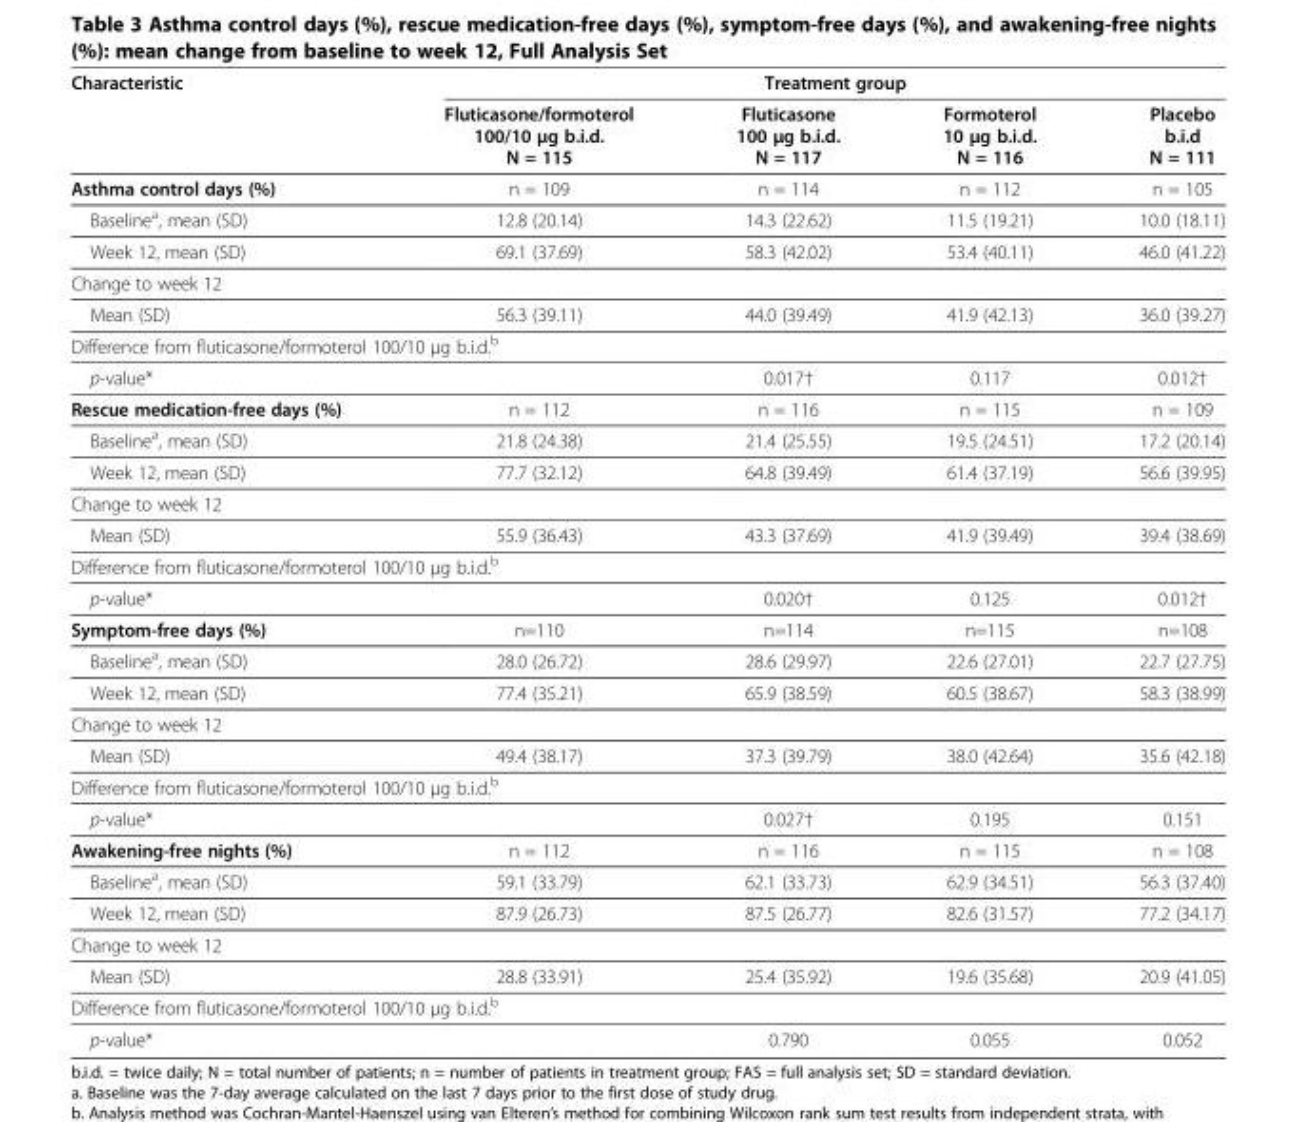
<table><thead><tr><td rowspan="2">Characteristic</td><td colspan="4">Treatment group</td></tr><tr><td>Fluticasone/formoterol 100/10 μg b.i.d. N = 115</td><td>Fluticasone 100 μg b.i.d. N = 117</td><td>Formoterol 10 μg b.i.d. N = 116</td><td>Placebo b.i.d N = 111</td></tr></thead><tbody><tr><td>Asthma control days (%)</td><td>n = 109</td><td>n = 114</td><td>n = 112</td><td>n = 105</td></tr><tr><td>Baseline<sup>a</sup>, mean (SD)</td><td>12.8 (20.14)</td><td>14.3 (22.62)</td><td>11.5 (19.21)</td><td>10.0 (18.11)</td></tr><tr><td>Week 12, mean (SD)</td><td>69.1 (37.69)</td><td>58.3 (42.02)</td><td>53.4 (40.11)</td><td>46.0 (41.22)</td></tr><tr><td colspan="5">Change to week 12</td></tr><tr><td>Mean (SD)</td><td>56.3 (39.11)</td><td>44.0 (39.49)</td><td>41.9 (42.13)</td><td>36.0 (39.27)</td></tr><tr><td colspan="5">Difference from fluticasone/formoterol 100/10 μg b.i.d.<sup>b</sup></td></tr><tr><td>p-value*</td><td></td><td>0.017†</td><td>0.117</td><td>0.012†</td></tr><tr><td>Rescue medication-free days (%)</td><td>n = 112</td><td>n = 116</td><td>n = 115</td><td>n = 109</td></tr><tr><td>Baseline<sup>a</sup>, mean (SD)</td><td>21.8 (24.38)</td><td>21.4 (25.55)</td><td>19.5 (24.51)</td><td>17.2 (20.14)</td></tr><tr><td>Week 12, mean (SD)</td><td>77.7 (32.12)</td><td>64.8 (39.49)</td><td>61.4 (37.19)</td><td>56.6 (39.95)</td></tr><tr><td colspan="5">Change to week 12</td></tr><tr><td>Mean (SD)</td><td>55.9 (36.43)</td><td>43.3 (37.69)</td><td>41.9 (39.49)</td><td>39.4 (38.69)</td></tr><tr><td colspan="5">Difference from fluticasone/formoterol 100/10 μg b.i.d.<sup>b</sup></td></tr><tr><td>p-value*</td><td></td><td>0.020†</td><td>0.125</td><td>0.012†</td></tr><tr><td>Symptom-free days (%)</td><td>n=110</td><td>n=114</td><td>n=115</td><td>n=108</td></tr><tr><td>Baseline<sup>a</sup>, mean (SD)</td><td>28.0 (26.72)</td><td>28.6 (29.97)</td><td>22.6 (27.01)</td><td>22.7 (27.75)</td></tr><tr><td>Week 12, mean (SD)</td><td>77.4 (35.21)</td><td>65.9 (38.59)</td><td>60.5 (38.67)</td><td>58.3 (38.99)</td></tr><tr><td colspan="5">Change to week 12</td></tr><tr><td>Mean (SD)</td><td>49.4 (38.17)</td><td>37.3 (39.79)</td><td>38.0 (42.64)</td><td>35.6 (42.18)</td></tr><tr><td colspan="5">Difference from fluticasone/formoterol 100/10 μg b.i.d.<sup>b</sup></td></tr><tr><td>p-value*</td><td></td><td>0.027†</td><td>0.195</td><td>0.151</td></tr><tr><td>Awakening-free nights (%)</td><td>n = 112</td><td>n = 116</td><td>n = 115</td><td>n = 108</td></tr><tr><td>Baseline<sup>a</sup>, mean (SD)</td><td>59.1 (33.79)</td><td>62.1 (33.73)</td><td>62.9 (34.51)</td><td>56.3 (37.40)</td></tr><tr><td>Week 12, mean (SD)</td><td>87.9 (26.73)</td><td>87.5 (26.77)</td><td>82.6 (31.57)</td><td>77.2 (34.17)</td></tr><tr><td colspan="5">Change to week 12</td></tr><tr><td>Mean (SD)</td><td>28.8 (33.91)</td><td>25.4 (35.92)</td><td>19.6 (35.68)</td><td>20.9 (41.05)</td></tr><tr><td colspan="5">Difference from fluticasone/formoterol 100/10 μg b.i.d.<sup>b</sup></td></tr><tr><td>p-value*</td><td></td><td>0.790</td><td>0.055</td><td>0.052</td></tr></tbody></table>